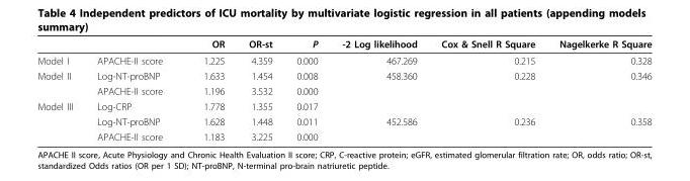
<table><thead><tr><td></td><td></td><td>OR</td><td>OR-st</td><td>P</td><td>-2 Log likelihood</td><td>Cox &amp; Snell R Square</td><td>Nagelkerke R Square</td></tr></thead><tbody><tr><td>Model I</td><td>APACHE-II score</td><td>1.225</td><td>4.359</td><td>0.000</td><td>467.269</td><td>0.215</td><td>0.328</td></tr><tr><td rowspan="2">Model II</td><td>Log-NT-proBNP</td><td>1.633</td><td>1.454</td><td>0.008</td><td>458.360</td><td>0.228</td><td>0.346</td></tr><tr><td>APACHE-II score</td><td>1.196</td><td>3.532</td><td>0.000</td><td></td><td></td><td></td></tr><tr><td rowspan="3">Model III</td><td>Log-CRP</td><td>1.778</td><td>1.355</td><td>0.017</td><td></td><td></td><td></td></tr><tr><td>Log-NT-proBNP</td><td>1.628</td><td>1.448</td><td>0.011</td><td>452.586</td><td>0.236</td><td>0.358</td></tr><tr><td>APACHE-II score</td><td>1.183</td><td>3.225</td><td>0.000</td><td></td><td></td><td></td></tr></tbody></table>